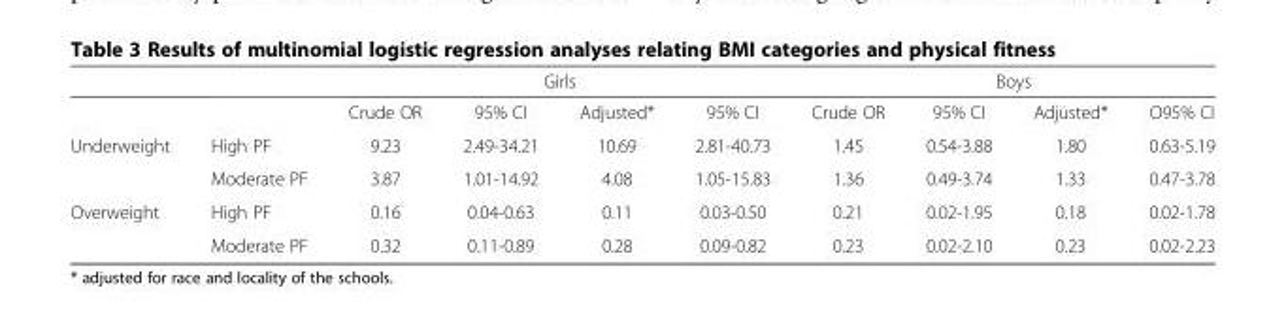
<table><thead><tr><td rowspan="2"></td><td rowspan="2"></td><td colspan="4">Girls</td><td colspan="4">Boys</td></tr><tr><td>Crude OR</td><td>95% CI</td><td>Adjusted*</td><td>95% CI</td><td>Crude OR</td><td>95% CI</td><td>Adjusted*</td><td>O95% CI</td></tr></thead><tbody><tr><td rowspan="2">Underweight</td><td>High PF</td><td>9.23</td><td>2.49-34.21</td><td>10.69</td><td>2.81-40.73</td><td>1.45</td><td>0.54-3.88</td><td>1.80</td><td>0.63-5.19</td></tr><tr><td>Moderate PF</td><td>3.87</td><td>1.01-14.92</td><td>4.08</td><td>1.05-15.83</td><td>1.36</td><td>0.49-3.74</td><td>1.33</td><td>0.47-3.78</td></tr><tr><td rowspan="2">Overweight</td><td>High PF</td><td>0.16</td><td>0.04-0.63</td><td>0.11</td><td>0.03-0.50</td><td>0.21</td><td>0.02-1.95</td><td>0.18</td><td>0.02-1.78</td></tr><tr><td>Moderate PF</td><td>0.32</td><td>0.11-0.89</td><td>0.28</td><td>0.09-0.82</td><td>0.23</td><td>0.02-2.10</td><td>0.23</td><td>0.02-2.23</td></tr></tbody></table>